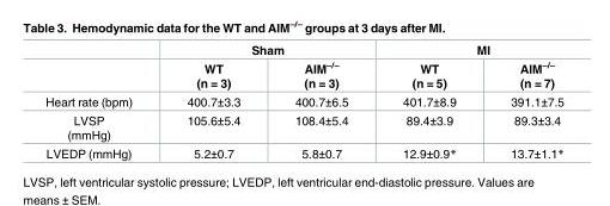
<table><thead><tr><td rowspan="2"></td><td colspan="2">Sham</td><td colspan="2">MI</td></tr><tr><td>WT (n = 3)</td><td>AIM<sup>–/–</sup> (n = 3)</td><td>WT (n = 5)</td><td>AIM<sup>–/–</sup> (n = 7)</td></tr></thead><tbody><tr><td>Heart rate (bpm)</td><td>400.7±3.3</td><td>400.7±6.5</td><td>401.7±8.9</td><td>391.1±7.5</td></tr><tr><td>LVSP (mmHg)</td><td>105.6±5.4</td><td>108.4±5.4</td><td>89.4±3.9</td><td>89.3±3.4</td></tr><tr><td>LVEDP (mmHg)</td><td>5.2±0.7</td><td>5.8±0.7</td><td>12.9±0.9*</td><td>13.7±1.1*</td></tr></tbody></table>